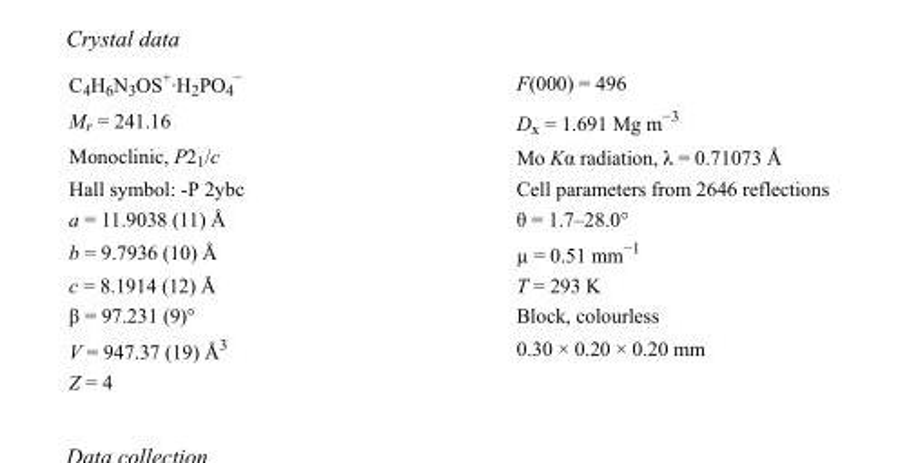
<table><tbody><tr><td>C<sub>4</sub>H<sub>6</sub>N<sub>3</sub>OS<sup>+</sup>·H<sub>2</sub>PO<sub>4</sub> <sup>−</sup></td><td>F(000) = 496</td></tr><tr><td>M<sub>r</sub> = 241.16</td><td>D<sub>x</sub> = 1.691 Mg m<sup>−3</sup></td></tr><tr><td>Monoclinic, P2<sub>1</sub>/c</td><td>Mo Kα radiation, λ = 0.71073 Å</td></tr><tr><td>Hall symbol: -P 2ybc</td><td>Cell parameters from 2646 reflections</td></tr><tr><td>a = 11.9038 (11) Å</td><td>θ = 1.7–28.0°</td></tr><tr><td>b = 9.7936 (10) Å</td><td>µ = 0.51 mm<sup>−1</sup></td></tr><tr><td>c = 8.1914 (12) Å</td><td>T = 293 K</td></tr><tr><td>β = 97.231 (9)°</td><td>Block, colourless</td></tr><tr><td>V = 947.37 (19) Å<sup>3</sup></td><td>0.30 × 0.20 × 0.20 mm</td></tr><tr><td>Z = 4</td><td></td></tr></tbody></table>